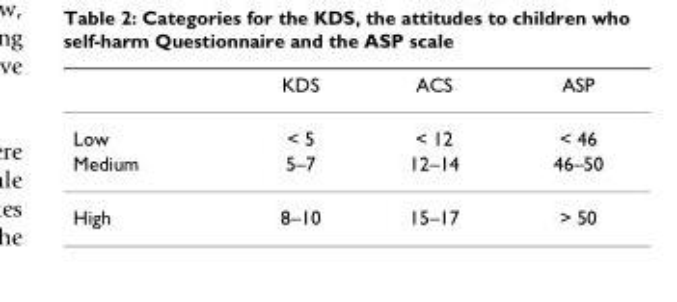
<table><thead><tr><td></td><td>KDS</td><td>ACS</td><td>ASP</td></tr></thead><tbody><tr><td>Low</td><td>&lt; 5</td><td>&lt; 12</td><td>&lt; 46</td></tr><tr><td>Medium</td><td>5–7</td><td>12–14</td><td>46–50</td></tr><tr><td>High</td><td>8–10</td><td>15–17</td><td>&gt; 50</td></tr></tbody></table>